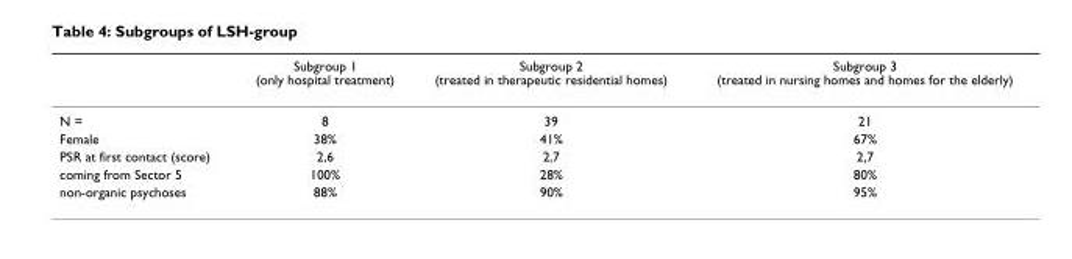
<table><thead><tr><td></td><td>Subgroup 1 (only hospital treatment)</td><td>Subgroup 2 (treated in therapeutic residential homes)</td><td>Subgroup 3 (treated in nursing homes and homes for the elderly)</td></tr></thead><tbody><tr><td>N =</td><td>8</td><td>39</td><td>21</td></tr><tr><td>Female</td><td>38%</td><td>41%</td><td>67%</td></tr><tr><td>PSR at first contact (score)</td><td>2,6</td><td>2,7</td><td>2,7</td></tr><tr><td>coming from Sector 5</td><td>100%</td><td>28%</td><td>80%</td></tr><tr><td>non-organic psychoses</td><td>88%</td><td>90%</td><td>95%</td></tr></tbody></table>